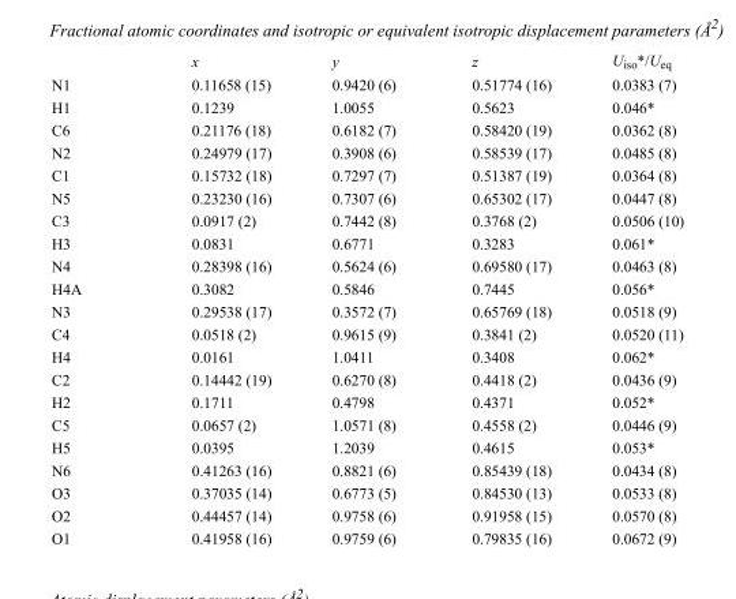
<table><thead><tr><td></td><td>x</td><td>y</td><td>z</td><td>U<sub>iso</sub>*/U<sub>eq</sub></td></tr></thead><tbody><tr><td>N1</td><td>0.11658 (15)</td><td>0.9420 (6)</td><td>0.51774 (16)</td><td>0.0383 (7)</td></tr><tr><td>H1</td><td>0.1239</td><td>1.0055</td><td>0.5623</td><td>0.046*</td></tr><tr><td>C6</td><td>0.21176 (18)</td><td>0.6182 (7)</td><td>0.58420 (19)</td><td>0.0362 (8)</td></tr><tr><td>N2</td><td>0.24979 (17)</td><td>0.3908 (6)</td><td>0.58539 (17)</td><td>0.0485 (8)</td></tr><tr><td>C1</td><td>0.15732 (18)</td><td>0.7297 (7)</td><td>0.51387 (19)</td><td>0.0364 (8)</td></tr><tr><td>N5</td><td>0.23230 (16)</td><td>0.7307 (6)</td><td>0.65302 (17)</td><td>0.0447 (8)</td></tr><tr><td>C3</td><td>0.0917 (2)</td><td>0.7442 (8)</td><td>0.3768 (2)</td><td>0.0506 (10)</td></tr><tr><td>H3</td><td>0.0831</td><td>0.6771</td><td>0.3283</td><td>0.061*</td></tr><tr><td>N4</td><td>0.28398 (16)</td><td>0.5624 (6)</td><td>0.69580 (17)</td><td>0.0463 (8)</td></tr><tr><td>H4A</td><td>0.3082</td><td>0.5846</td><td>0.7445</td><td>0.056*</td></tr><tr><td>N3</td><td>0.29538 (17)</td><td>0.3572 (7)</td><td>0.65769 (18)</td><td>0.0518 (9)</td></tr><tr><td>C4</td><td>0.0518 (2)</td><td>0.9615 (9)</td><td>0.3841 (2)</td><td>0.0520 (11)</td></tr><tr><td>H4</td><td>0.0161</td><td>1.0411</td><td>0.3408</td><td>0.062*</td></tr><tr><td>C2</td><td>0.14442 (19)</td><td>0.6270 (8)</td><td>0.4418 (2)</td><td>0.0436 (9)</td></tr><tr><td>H2</td><td>0.1711</td><td>0.4798</td><td>0.4371</td><td>0.052*</td></tr><tr><td>C5</td><td>0.0657 (2)</td><td>1.0571 (8)</td><td>0.4558 (2)</td><td>0.0446 (9)</td></tr><tr><td>H5</td><td>0.0395</td><td>1.2039</td><td>0.4615</td><td>0.053*</td></tr><tr><td>N6</td><td>0.41263 (16)</td><td>0.8821 (6)</td><td>0.85439 (18)</td><td>0.0434 (8)</td></tr><tr><td>O3</td><td>0.37035 (14)</td><td>0.6773 (5)</td><td>0.84530 (13)</td><td>0.0533 (8)</td></tr><tr><td>O2</td><td>0.44457 (14)</td><td>0.9758 (6)</td><td>0.91958 (15)</td><td>0.0570 (8)</td></tr><tr><td>O1</td><td>0.41958 (16)</td><td>0.9759 (6)</td><td>0.79835 (16)</td><td>0.0672 (9)</td></tr></tbody></table>